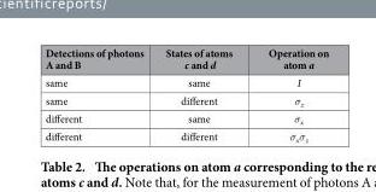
<table><thead><tr><td>Detections of photons A and B</td><td>States of atoms c and d</td><td>Operation on atom a</td></tr></thead><tbody><tr><td>same</td><td>same</td><td>I</td></tr><tr><td>same</td><td>different</td><td>σ<sub>z</sub></td></tr><tr><td>different</td><td>same</td><td>σ<sub>x</sub></td></tr><tr><td>different</td><td>different</td><td>σ<sub>x</sub>σ<sub>z</sub></td></tr></tbody></table>